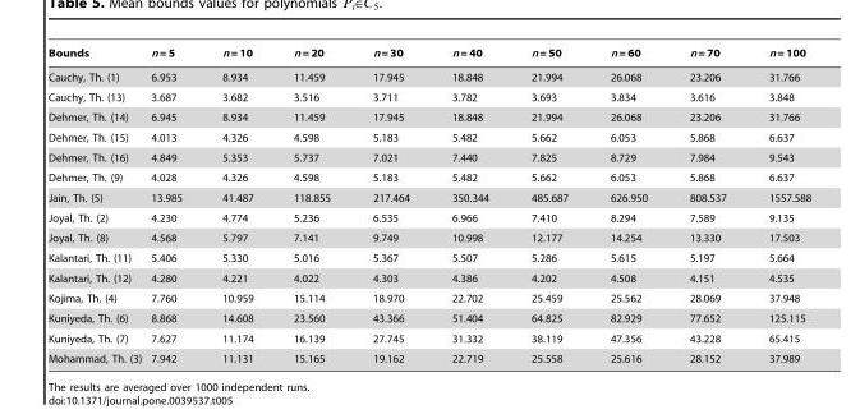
<table><thead><tr><td>Bounds</td><td>n = 5</td><td>n = 10</td><td>n = 20</td><td>n = 30</td><td>n = 40</td><td>n = 50</td><td>n = 60</td><td>n = 70</td><td>n = 100</td></tr></thead><tbody><tr><td>Cauchy, Th. (1)</td><td>6.953</td><td>8.934</td><td>11.459</td><td>17.945</td><td>18.848</td><td>21.994</td><td>26.068</td><td>23.206</td><td>31.766</td></tr><tr><td>Cauchy, Th. (13)</td><td>3.687</td><td>3.682</td><td>3.516</td><td>3.711</td><td>3.782</td><td>3.693</td><td>3.834</td><td>3.616</td><td>3.848</td></tr><tr><td>Dehmer, Th. (14)</td><td>6.945</td><td>8.934</td><td>11.459</td><td>17.945</td><td>18.848</td><td>21.994</td><td>26.068</td><td>23.206</td><td>31.766</td></tr><tr><td>Dehmer, Th. (15)</td><td>4.013</td><td>4.326</td><td>4.598</td><td>5.183</td><td>5.482</td><td>5.662</td><td>6.053</td><td>5.868</td><td>6.637</td></tr><tr><td>Dehmer, Th. (16)</td><td>4.849</td><td>5.353</td><td>5.737</td><td>7.021</td><td>7.440</td><td>7.825</td><td>8.729</td><td>7.984</td><td>9.543</td></tr><tr><td>Dehmer, Th. (9)</td><td>4.028</td><td>4.326</td><td>4.598</td><td>5.183</td><td>5.482</td><td>5.662</td><td>6.053</td><td>5.868</td><td>6.637</td></tr><tr><td>Jain, Th. (5)</td><td>13.985</td><td>41.487</td><td>118.855</td><td>217.464</td><td>350.344</td><td>485.687</td><td>626.950</td><td>808.537</td><td>1557.588</td></tr><tr><td>Joyal, Th. (2)</td><td>4.230</td><td>4.774</td><td>5.236</td><td>6.535</td><td>6.966</td><td>7.410</td><td>8.294</td><td>7.589</td><td>9.135</td></tr><tr><td>Joyal, Th. (8)</td><td>4.568</td><td>5.797</td><td>7.141</td><td>9.749</td><td>10.998</td><td>12.177</td><td>14.254</td><td>13.330</td><td>17.503</td></tr><tr><td>Kalantari, Th. (11)</td><td>5.406</td><td>5.330</td><td>5.016</td><td>5.367</td><td>5.507</td><td>5.286</td><td>5.615</td><td>5.197</td><td>5.664</td></tr><tr><td>Kalantari, Th. (12)</td><td>4.280</td><td>4.221</td><td>4.022</td><td>4.303</td><td>4.386</td><td>4.202</td><td>4.508</td><td>4.151</td><td>4.535</td></tr><tr><td>Kojima, Th. (4)</td><td>7.760</td><td>10.959</td><td>15.114</td><td>18.970</td><td>22.702</td><td>25.459</td><td>25.562</td><td>28.069</td><td>37.948</td></tr><tr><td>Kuniyeda, Th. (6)</td><td>8.868</td><td>14.608</td><td>23.560</td><td>43.366</td><td>51.404</td><td>64.825</td><td>82.929</td><td>77.652</td><td>125.115</td></tr><tr><td>Kuniyeda, Th. (7)</td><td>7.627</td><td>11.174</td><td>16.139</td><td>27.745</td><td>31.332</td><td>38.119</td><td>47.356</td><td>43.228</td><td>65.415</td></tr><tr><td>Mohammad, Th. (3)</td><td>7.942</td><td>11.131</td><td>15.165</td><td>19.162</td><td>22.719</td><td>25.558</td><td>25.616</td><td>28.152</td><td>37.989</td></tr></tbody></table>